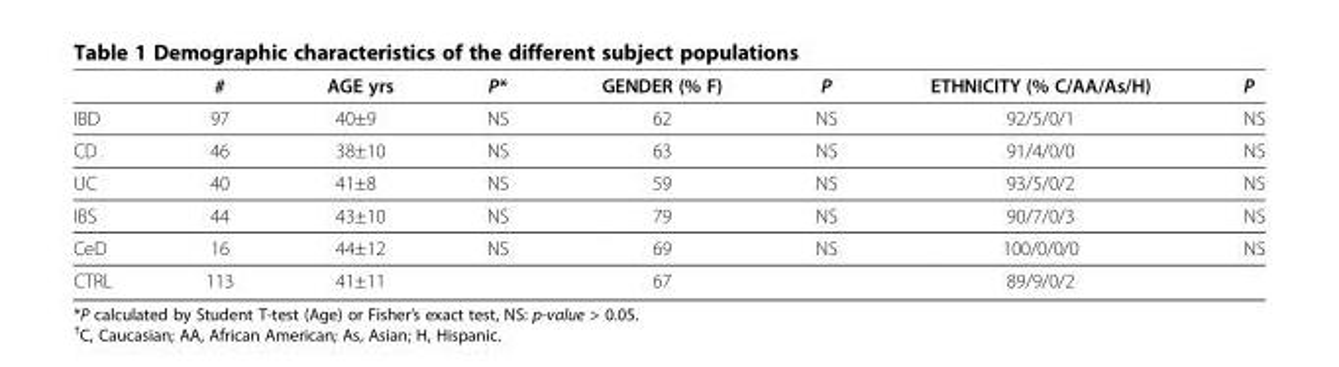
<table><thead><tr><td></td><td>#</td><td>AGE yrs</td><td>P*</td><td>GENDER (% F)</td><td>P</td><td>ETHNICITY (% C/AA/As/H)</td><td>P</td></tr></thead><tbody><tr><td>IBD</td><td>97</td><td>40±9</td><td>NS</td><td>62</td><td>NS</td><td>92/5/0/1</td><td>NS</td></tr><tr><td>CD</td><td>46</td><td>38±10</td><td>NS</td><td>63</td><td>NS</td><td>91/4/0/0</td><td>NS</td></tr><tr><td>UC</td><td>40</td><td>41±8</td><td>NS</td><td>59</td><td>NS</td><td>93/5/0/2</td><td>NS</td></tr><tr><td>IBS</td><td>44</td><td>43±10</td><td>NS</td><td>79</td><td>NS</td><td>90/7/0/3</td><td>NS</td></tr><tr><td>CeD</td><td>16</td><td>44±12</td><td>NS</td><td>69</td><td>NS</td><td>100/0/0/0</td><td>NS</td></tr><tr><td>CTRL</td><td>113</td><td>41±11</td><td></td><td>67</td><td></td><td>89/9/0/2</td><td></td></tr></tbody></table>